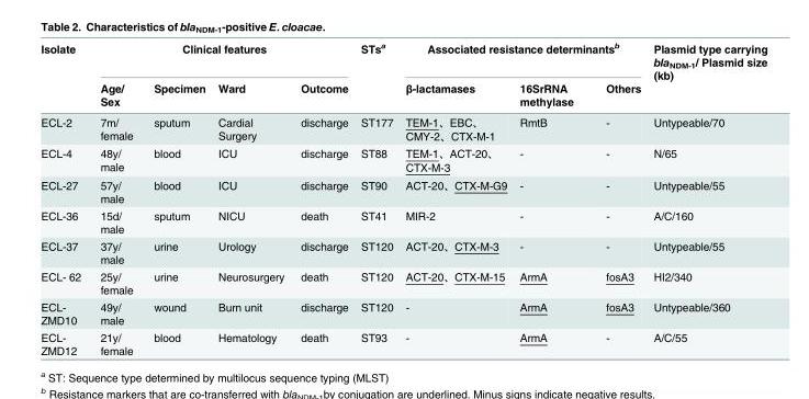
<table><thead><tr><td rowspan="2">Isolate</td><td colspan="4">Clinical features</td><td rowspan="2">STs<sup>a</sup></td><td colspan="3">Associated resistance determinants<sup>b</sup></td><td rowspan="2">Plasmid type carrying bla<sub>NDM-1</sub>/ Plasmid size (kb)</td></tr><tr><td>Age/ Sex</td><td>Specimen</td><td>Ward</td><td>Outcome</td><td>β-lactamases</td><td>16SrRNA methylase</td><td>Others</td></tr></thead><tbody><tr><td>ECL-2</td><td>7m/ female</td><td>sputum</td><td>Cardial Surgery</td><td>discharge</td><td>ST177</td><td>TEM-1、EBC、 CMY-2、CTX-M-1</td><td>RmtB</td><td>-</td><td>Untypeable/70</td></tr><tr><td>ECL-4</td><td>48y/ male</td><td>blood</td><td>ICU</td><td>discharge</td><td>ST88</td><td>TEM-1、ACT-20、 CTX-M-3</td><td>-</td><td>-</td><td>N/65</td></tr><tr><td>ECL-27</td><td>57y/ male</td><td>blood</td><td>ICU</td><td>discharge</td><td>ST90</td><td>ACT-20、CTX-M-G9</td><td>-</td><td>-</td><td>Untypeable/55</td></tr><tr><td>ECL-36</td><td>15d/ male</td><td>sputum</td><td>NICU</td><td>death</td><td>ST41</td><td>MIR-2</td><td>-</td><td>-</td><td>A/C/160</td></tr><tr><td>ECL-37</td><td>37y/ male</td><td>urine</td><td>Urology</td><td>discharge</td><td>ST120</td><td>ACT-20、CTX-M-3</td><td>-</td><td>-</td><td>Untypeable/55</td></tr><tr><td>ECL- 62</td><td>25y/ female</td><td>urine</td><td>Neurosurgery</td><td>death</td><td>ST120</td><td>ACT-20、CTX-M-15</td><td>ArmA</td><td>fosA3</td><td>HI2/340</td></tr><tr><td>ECL- ZMD10</td><td>49y/ male</td><td>wound</td><td>Burn unit</td><td>discharge</td><td>ST120</td><td>-</td><td>ArmA</td><td>fosA3</td><td>Untypeable/360</td></tr><tr><td>ECL- ZMD12</td><td>21y/ female</td><td>blood</td><td>Hematology</td><td>death</td><td>ST93</td><td>-</td><td>ArmA</td><td>-</td><td>A/C/55</td></tr></tbody></table>